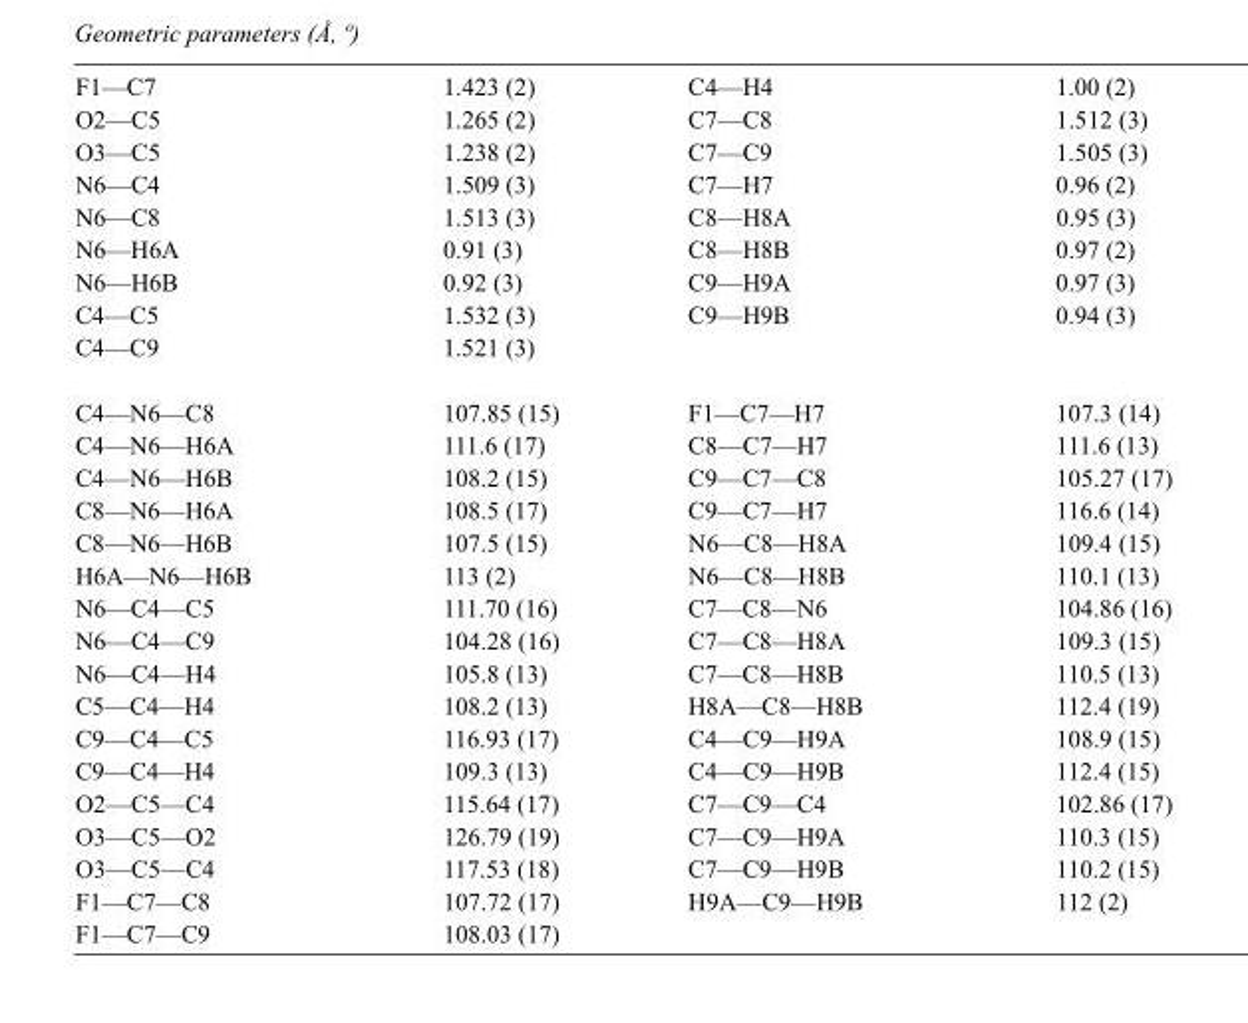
<table><tbody><tr><td>F1—C7</td><td>1.423 (2)</td><td>C4—H4</td><td>1.00 (2)</td></tr><tr><td>O2—C5</td><td>1.265 (2)</td><td>C7—C8</td><td>1.512 (3)</td></tr><tr><td>O3—C5</td><td>1.238 (2)</td><td>C7—C9</td><td>1.505 (3)</td></tr><tr><td>N6—C4</td><td>1.509 (3)</td><td>C7—H7</td><td>0.96 (2)</td></tr><tr><td>N6—C8</td><td>1.513 (3)</td><td>C8—H8A</td><td>0.95 (3)</td></tr><tr><td>N6—H6A</td><td>0.91 (3)</td><td>C8—H8B</td><td>0.97 (2)</td></tr><tr><td>N6—H6B</td><td>0.92 (3)</td><td>C9—H9A</td><td>0.97 (3)</td></tr><tr><td>C4—C5</td><td>1.532 (3)</td><td>C9—H9B</td><td>0.94 (3)</td></tr><tr><td>C4—C9</td><td>1.521 (3)</td><td></td><td></td></tr><tr><td>C4—N6—C8</td><td>107.85 (15)</td><td>F1—C7—H7</td><td>107.3 (14)</td></tr><tr><td>C4—N6—H6A</td><td>111.6 (17)</td><td>C8—C7—H7</td><td>111.6 (13)</td></tr><tr><td>C4—N6—H6B</td><td>108.2 (15)</td><td>C9—C7—C8</td><td>105.27 (17)</td></tr><tr><td>C8—N6—H6A</td><td>108.5 (17)</td><td>C9—C7—H7</td><td>116.6 (14)</td></tr><tr><td>C8—N6—H6B</td><td>107.5 (15)</td><td>N6—C8—H8A</td><td>109.4 (15)</td></tr><tr><td>H6A—N6—H6B</td><td>113 (2)</td><td>N6—C8—H8B</td><td>110.1 (13)</td></tr><tr><td>N6—C4—C5</td><td>111.70 (16)</td><td>C7—C8—N6</td><td>104.86 (16)</td></tr><tr><td>N6—C4—C9</td><td>104.28 (16)</td><td>C7—C8—H8A</td><td>109.3 (15)</td></tr><tr><td>N6—C4—H4</td><td>105.8 (13)</td><td>C7—C8—H8B</td><td>110.5 (13)</td></tr><tr><td>C5—C4—H4</td><td>108.2 (13)</td><td>H8A—C8—H8B</td><td>112.4 (19)</td></tr><tr><td>C9—C4—C5</td><td>116.93 (17)</td><td>C4—C9—H9A</td><td>108.9 (15)</td></tr><tr><td>C9—C4—H4</td><td>109.3 (13)</td><td>C4—C9—H9B</td><td>112.4 (15)</td></tr><tr><td>O2—C5—C4</td><td>115.64 (17)</td><td>C7—C9—C4</td><td>102.86 (17)</td></tr><tr><td>O3—C5—O2</td><td>126.79 (19)</td><td>C7—C9—H9A</td><td>110.3 (15)</td></tr><tr><td>O3—C5—C4</td><td>117.53 (18)</td><td>C7—C9—H9B</td><td>110.2 (15)</td></tr><tr><td>F1—C7—C8</td><td>107.72 (17)</td><td>H9A—C9—H9B</td><td>112 (2)</td></tr><tr><td>F1—C7—C9</td><td>108.03 (17)</td><td></td><td></td></tr></tbody></table>